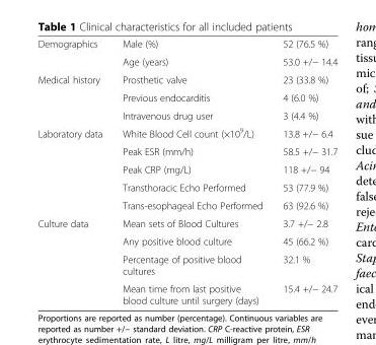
<table><tbody><tr><td rowspan="2">Demographics</td><td>Male (%)</td><td>52 (76.5 %)</td></tr><tr><td>Age (years)</td><td>53.0 +/− 14.4</td></tr><tr><td rowspan="3">Medical history</td><td>Prosthetic valve</td><td>23 (33.8 %)</td></tr><tr><td>Previous endocarditis</td><td>4 (6.0 %)</td></tr><tr><td>Intravenous drug user</td><td>3 (4.4 %)</td></tr><tr><td rowspan="5">Laboratory data</td><td>White Blood Cell count (×10<sup>9</sup>/L)</td><td>13.8 +/− 6.4</td></tr><tr><td>Peak ESR (mm/h)</td><td>58.5 +/− 31.7</td></tr><tr><td>Peak CRP (mg/L)</td><td>118 +/− 94</td></tr><tr><td>Transthoracic Echo Performed</td><td>53 (77.9 %)</td></tr><tr><td>Trans-esophageal Echo Performed</td><td>63 (92.6 %)</td></tr><tr><td rowspan="4">Culture data</td><td>Mean sets of Blood Cultures</td><td>3.7 +/− 2.8</td></tr><tr><td>Any positive blood culture</td><td>45 (66.2 %)</td></tr><tr><td>Percentage of positive blood cultures</td><td>32.1 %</td></tr><tr><td>Mean time from last positive blood culture until surgery (days)</td><td>15.4 +/− 24.7</td></tr></tbody></table>